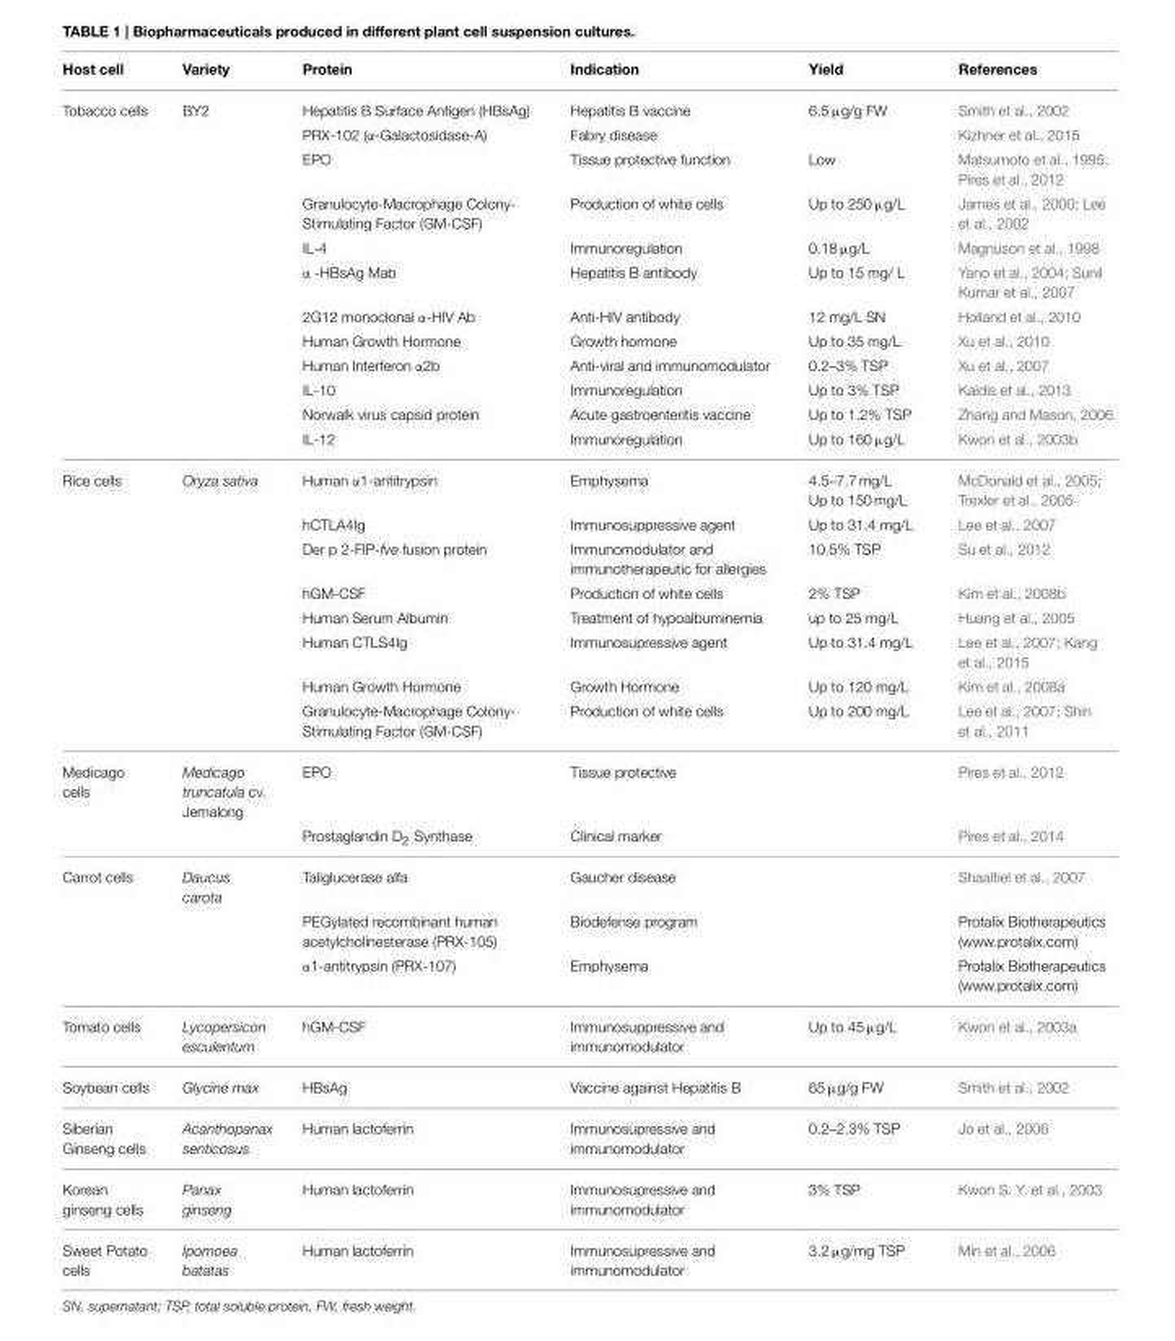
<table><thead><tr><td>Host cell</td><td>Variety</td><td>Protein</td><td>Indication</td><td>Yield</td><td>References</td></tr></thead><tbody><tr><td rowspan="12">Tobacco cells</td><td>BY2</td><td>Hepatitis B Surface Antigen (HBsAg)</td><td>Hepatitis B vaccine</td><td>6.5 µg/g FW</td><td>Smith et al., 2002</td></tr><tr><td></td><td>PRX-102 (α-Galactosidase-A)</td><td>Fabry disease</td><td></td><td>Kizhner et al., 2015</td></tr><tr><td></td><td>EPO</td><td>Tissue protective function</td><td>Low</td><td>Matsumoto et al., 1995; Pires et al., 2012</td></tr><tr><td></td><td>Granulocyte-Macrophage Colony- Stimulating Factor (GM-CSF)</td><td>Production of white cells</td><td>Up to 250 µg/L</td><td>James et al., 2000; Lee et al., 2002</td></tr><tr><td></td><td>IL-4</td><td>Immunoregulation</td><td>0.18 µg/L</td><td>Magnuson et al., 1998</td></tr><tr><td></td><td>α -HBsAg Mab</td><td>Hepatitis B antibody</td><td>Up to 15 mg/ L</td><td>Yano et al., 2004; Sunil Kumar et al., 2007</td></tr><tr><td></td><td>2G12 monoclonal α-HIV Ab</td><td>Anti-HIV antibody</td><td>12 mg/L SN</td><td>Holland et al., 2010</td></tr><tr><td></td><td>Human Growth Hormone</td><td>Growth hormone</td><td>Up to 35 mg/L</td><td>Xu et al., 2010</td></tr><tr><td></td><td>Human Interferon α2b</td><td>Anti-viral and immunomodulator</td><td>0.2–3% TSP</td><td>Xu et al., 2007</td></tr><tr><td></td><td>IL-10</td><td>Immunoregulation</td><td>Up to 3% TSP</td><td>Kaldis et al., 2013</td></tr><tr><td></td><td>Norwalk virus capsid protein</td><td>Acute gastroenteritis vaccine</td><td>Up to 1.2% TSP</td><td>Zhang and Mason, 2006</td></tr><tr><td></td><td>IL-12</td><td>Immunoregulation</td><td>Up to 160 µg/L</td><td>Kwon et al., 2003b</td></tr><tr><td rowspan="8">Rice cells</td><td>Oryza sativa</td><td>Human α1-antitrypsin</td><td>Emphysema</td><td>4.5–7.7 mg/L Up to 150 mg/L</td><td>McDonald et al., 2005; Trexler et al., 2005</td></tr><tr><td></td><td>hCTLA4Ig</td><td>Immunosuppressive agent</td><td>Up to 31.4 mg/L</td><td>Lee et al., 2007</td></tr><tr><td></td><td>Der p 2-FIP-fve fusion protein</td><td>Immunomodulator and immunotherapeutic for allergies</td><td>10.5% TSP</td><td>Su et al., 2012</td></tr><tr><td></td><td>hGM-CSF</td><td>Production of white cells</td><td>2% TSP</td><td>Kim et al., 2008b</td></tr><tr><td></td><td>Human Serum Albumin</td><td>Treatment of hypoalbuminemia</td><td>up to 25 mg/L</td><td>Huang et al., 2005</td></tr><tr><td></td><td>Human CTLS4Ig</td><td>Immunosupressive agent</td><td>Up to 31.4 mg/L</td><td>Lee et al., 2007; Kang et al., 2015</td></tr><tr><td></td><td>Human Growth Hormone</td><td>Growth Hormone</td><td>Up to 120 mg/L</td><td>Kim et al., 2008a</td></tr><tr><td></td><td>Granulocyte-Macrophage Colony- Stimulating Factor (GM-CSF)</td><td>Production of white cells</td><td>Up to 200 mg/L</td><td>Lee et al., 2007; Shin et al., 2011</td></tr><tr><td rowspan="2">Medicago cells</td><td>Medicago truncatula cv. Jemalong</td><td>EPO</td><td>Tissue protective</td><td></td><td>Pires et al., 2012</td></tr><tr><td></td><td>Prostaglandin D<sub>2</sub> Synthase</td><td>Clinical marker</td><td></td><td>Pires et al., 2014</td></tr><tr><td rowspan="3">Carrot cells</td><td>Daucus carota</td><td>Taliglucerase alfa</td><td>Gaucher disease</td><td></td><td>Shaaltiel et al., 2007</td></tr><tr><td></td><td>PEGylated recombinant human acetylcholinesterase (PRX-105)</td><td>Biodefense program</td><td></td><td>Protalix Biotherapeutics (www.protalix.com)</td></tr><tr><td></td><td>α1-antitrypsin (PRX-107)</td><td>Emphysema</td><td></td><td>Protalix Biotherapeutics (www.protalix.com)</td></tr><tr><td>Tomato cells</td><td>Lycopersicon esculentum</td><td>hGM-CSF</td><td>Immunosuppressive and immunomodulator</td><td>Up to 45 µg/L</td><td>Kwon et al., 2003a</td></tr><tr><td>Soybean cells</td><td>Glycine max</td><td>HBsAg</td><td>Vaccine against Hepatitis B</td><td>65 µg/g FW</td><td>Smith et al., 2002</td></tr><tr><td>Siberian Ginseng cells</td><td>Acanthopanax senticosus</td><td>Human lactoferrin</td><td>Immunosupressive and immunomodulator</td><td>0.2–2.3% TSP</td><td>Jo et al., 2006</td></tr><tr><td>Korean ginseng cells</td><td>Panax ginseng</td><td>Human lactoferrin</td><td>Immunosupressive and immunomodulator</td><td>3% TSP</td><td>Kwon S. Y. et al., 2003</td></tr><tr><td>Sweet Potato cells</td><td>Ipomoea batatas</td><td>Human lactoferrin</td><td>Immunosupressive and immunomodulator</td><td>3.2 µg/mg TSP</td><td>Min et al., 2006</td></tr></tbody></table>